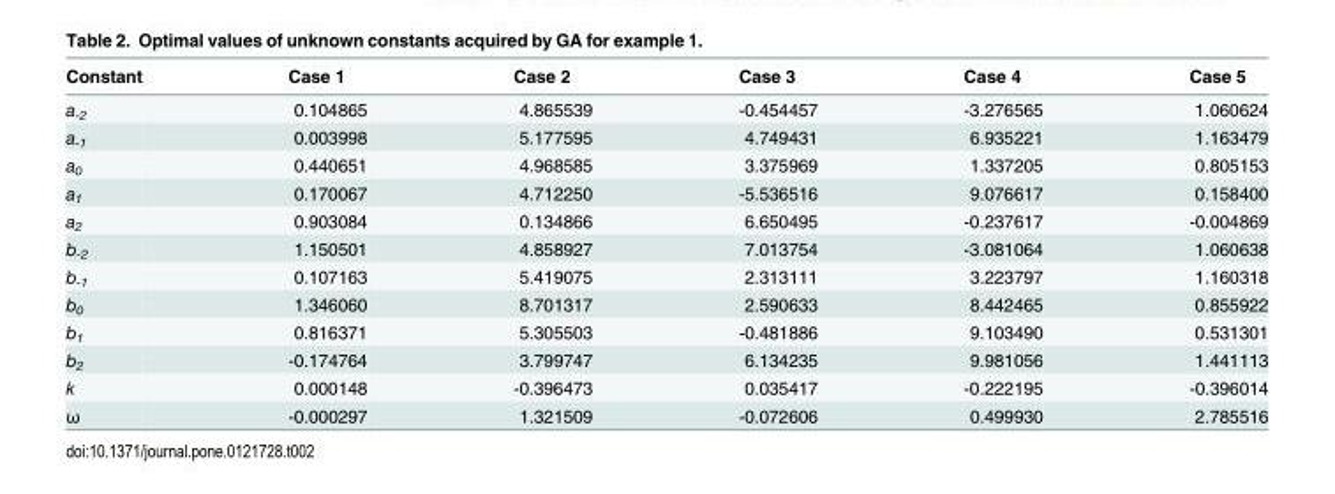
<table><thead><tr><td>Constant</td><td>Case 1</td><td>Case 2</td><td>Case 3</td><td>Case 4</td><td>Case 5</td></tr></thead><tbody><tr><td>a<sub>-2</sub></td><td>0.104865</td><td>4.865539</td><td>-0.454457</td><td>-3.276565</td><td>1.060624</td></tr><tr><td>a<sub>-1</sub></td><td>0.003998</td><td>5.177595</td><td>4.749431</td><td>6.935221</td><td>1.163479</td></tr><tr><td>a<sub>0</sub></td><td>0.440651</td><td>4.968585</td><td>3.375969</td><td>1.337205</td><td>0.805153</td></tr><tr><td>a<sub>1</sub></td><td>0.170067</td><td>4.712250</td><td>-5.536516</td><td>9.076617</td><td>0.158400</td></tr><tr><td>a<sub>2</sub></td><td>0.903084</td><td>0.134866</td><td>6.650495</td><td>-0.237617</td><td>-0.004869</td></tr><tr><td>b<sub>-2</sub></td><td>1.150501</td><td>4.858927</td><td>7.013754</td><td>-3.081064</td><td>1.060638</td></tr><tr><td>b<sub>-1</sub></td><td>0.107163</td><td>5.419075</td><td>2.313111</td><td>3.223797</td><td>1.160318</td></tr><tr><td>b<sub>0</sub></td><td>1.346060</td><td>8.701317</td><td>2.590633</td><td>8.442465</td><td>0.855922</td></tr><tr><td>b<sub>1</sub></td><td>0.816371</td><td>5.305503</td><td>-0.481886</td><td>9.103490</td><td>0.531301</td></tr><tr><td>b<sub>2</sub></td><td>-0.174764</td><td>3.799747</td><td>6.134235</td><td>9.981056</td><td>1.441113</td></tr><tr><td>k</td><td>0.000148</td><td>-0.396473</td><td>0.035417</td><td>-0.222195</td><td>-0.396014</td></tr><tr><td>ω</td><td>-0.000297</td><td>1.321509</td><td>-0.072606</td><td>0.499930</td><td>2.785516</td></tr></tbody></table>